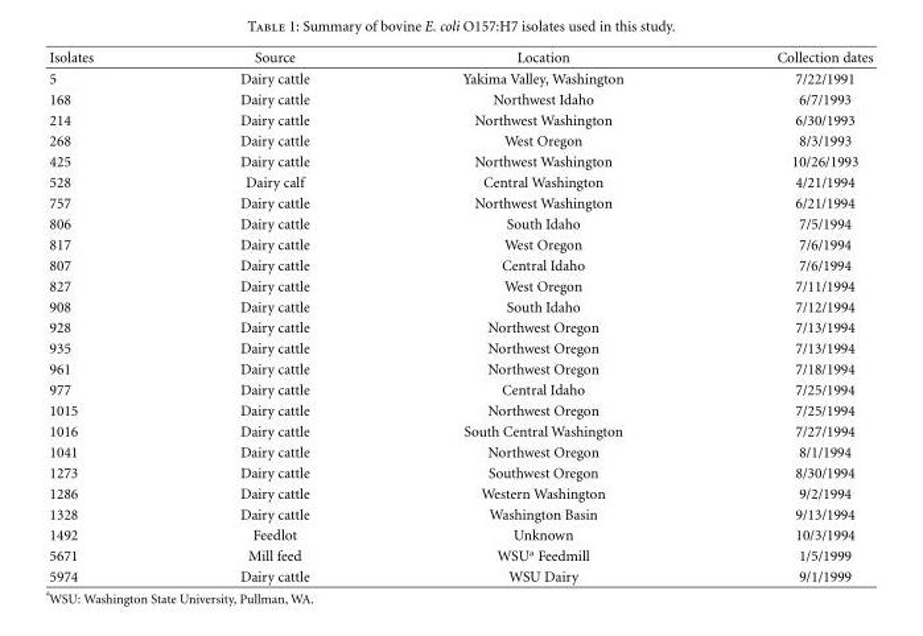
<table><thead><tr><td>Isolates</td><td>Source</td><td>Location</td><td>Collection dates</td></tr></thead><tbody><tr><td>5</td><td>Dairy cattle</td><td>Yakima Valley, Washington</td><td>7/22/1991</td></tr><tr><td>168</td><td>Dairy cattle</td><td>Northwest Idaho</td><td>6/7/1993</td></tr><tr><td>214</td><td>Dairy cattle</td><td>Northwest Washington</td><td>6/30/1993</td></tr><tr><td>268</td><td>Dairy cattle</td><td>West Oregon</td><td>8/3/1993</td></tr><tr><td>425</td><td>Dairy cattle</td><td>Northwest Washington</td><td>10/26/1993</td></tr><tr><td>528</td><td>Dairy calf</td><td>Central Washington</td><td>4/21/1994</td></tr><tr><td>757</td><td>Dairy cattle</td><td>Northwest Washington</td><td>6/21/1994</td></tr><tr><td>806</td><td>Dairy cattle</td><td>South Idaho</td><td>7/5/1994</td></tr><tr><td>817</td><td>Dairy cattle</td><td>West Oregon</td><td>7/6/1994</td></tr><tr><td>807</td><td>Dairy cattle</td><td>Central Idaho</td><td>7/6/1994</td></tr><tr><td>827</td><td>Dairy cattle</td><td>West Oregon</td><td>7/11/1994</td></tr><tr><td>908</td><td>Dairy cattle</td><td>South Idaho</td><td>7/12/1994</td></tr><tr><td>928</td><td>Dairy cattle</td><td>Northwest Oregon</td><td>7/13/1994</td></tr><tr><td>935</td><td>Dairy cattle</td><td>Northwest Oregon</td><td>7/13/1994</td></tr><tr><td>961</td><td>Dairy cattle</td><td>Northwest Oregon</td><td>7/18/1994</td></tr><tr><td>977</td><td>Dairy cattle</td><td>Central Idaho</td><td>7/25/1994</td></tr><tr><td>1015</td><td>Dairy cattle</td><td>Northwest Oregon</td><td>7/25/1994</td></tr><tr><td>1016</td><td>Dairy cattle</td><td>South Central Washington</td><td>7/27/1994</td></tr><tr><td>1041</td><td>Dairy cattle</td><td>Northwest Oregon</td><td>8/1/1994</td></tr><tr><td>1273</td><td>Dairy cattle</td><td>Southwest Oregon</td><td>8/30/1994</td></tr><tr><td>1286</td><td>Dairy cattle</td><td>Western Washington</td><td>9/2/1994</td></tr><tr><td>1328</td><td>Dairy cattle</td><td>Washington Basin</td><td>9/13/1994</td></tr><tr><td>1492</td><td>Feedlot</td><td>Unknown</td><td>10/3/1994</td></tr><tr><td>5671</td><td>Mill feed</td><td>WSU<sup>a</sup> Feedmill</td><td>1/5/1999</td></tr><tr><td>5974</td><td>Dairy cattle</td><td>WSU Dairy</td><td>9/1/1999</td></tr></tbody></table>